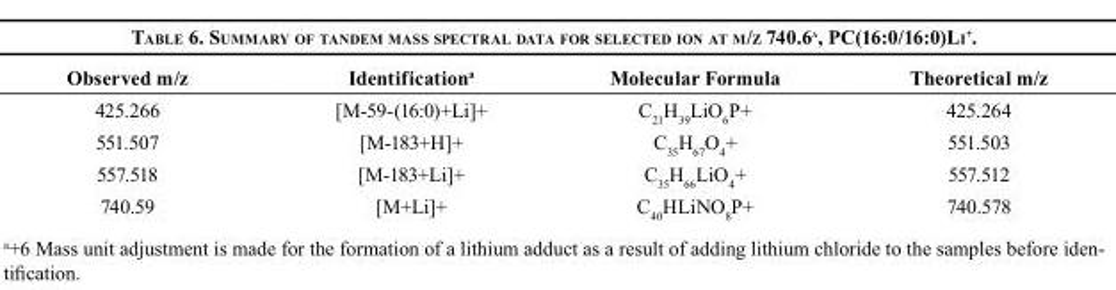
<table><thead><tr><td>Observed m/z</td><td>Identification<sup>a</sup></td><td>Molecular Formula</td><td>Theoretical m/z</td></tr></thead><tbody><tr><td>425.266</td><td>[M-59-(16:0)+Li]+</td><td>C<sub>21</sub>H<sub>39</sub>LiO<sub>6</sub>P+</td><td>425.264</td></tr><tr><td>551.507</td><td>[M-183+H]+</td><td>C<sub>35</sub>H<sub>67</sub>O<sub>4</sub>+</td><td>551.503</td></tr><tr><td>557.518</td><td>[M-183+Li]+</td><td>C<sub>35</sub>H<sub>66</sub>LiO<sub>4</sub>+</td><td>557.512</td></tr><tr><td>740.59</td><td>[M+Li]+</td><td>C<sub>40</sub>HLiNO<sub>8</sub>P+</td><td>740.578</td></tr></tbody></table>